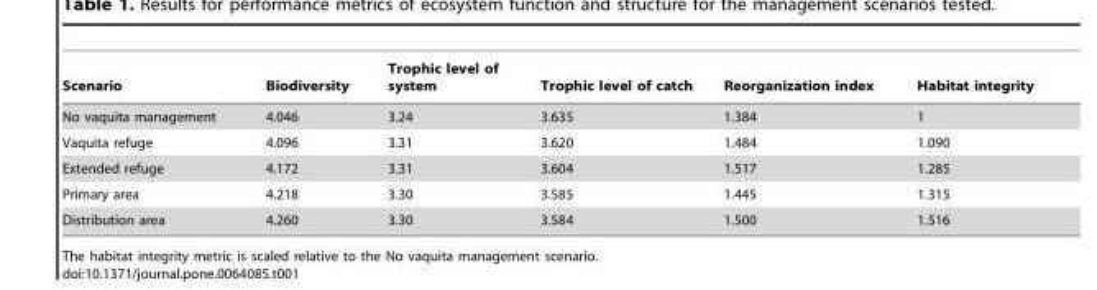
<table><thead><tr><td>Scenario</td><td>Biodiversity</td><td>Trophic level of system</td><td>Trophic level of catch</td><td>Reorganization index</td><td>Habitat integrity</td></tr></thead><tbody><tr><td>No vaquita management</td><td>4.046</td><td>3.24</td><td>3.635</td><td>1.384</td><td>1</td></tr><tr><td>Vaquita refuge</td><td>4.096</td><td>3.31</td><td>3.620</td><td>1.484</td><td>1.090</td></tr><tr><td>Extended refuge</td><td>4.172</td><td>3.31</td><td>3.604</td><td>1.517</td><td>1.285</td></tr><tr><td>Primary area</td><td>4.218</td><td>3.30</td><td>3.585</td><td>1.445</td><td>1.315</td></tr><tr><td>Distribution area</td><td>4.260</td><td>3.30</td><td>3.584</td><td>1.500</td><td>1.516</td></tr></tbody></table>